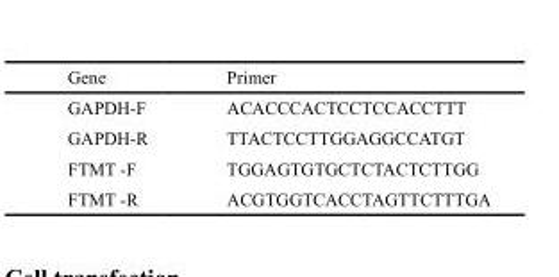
<table><thead><tr><td>Gene</td><td>Primer</td></tr></thead><tbody><tr><td>GAPDH-F</td><td>ACACCCACTCCTCCACCTTT</td></tr><tr><td>GAPDH-R</td><td>TTACTCCTTGGAGGCCATGT</td></tr><tr><td>FTMT -F</td><td>TGGAGTGTGCTCTACTCTTGG</td></tr><tr><td>FTMT -R</td><td>ACGTGGTCACCTAGTTCTTTGA</td></tr></tbody></table>